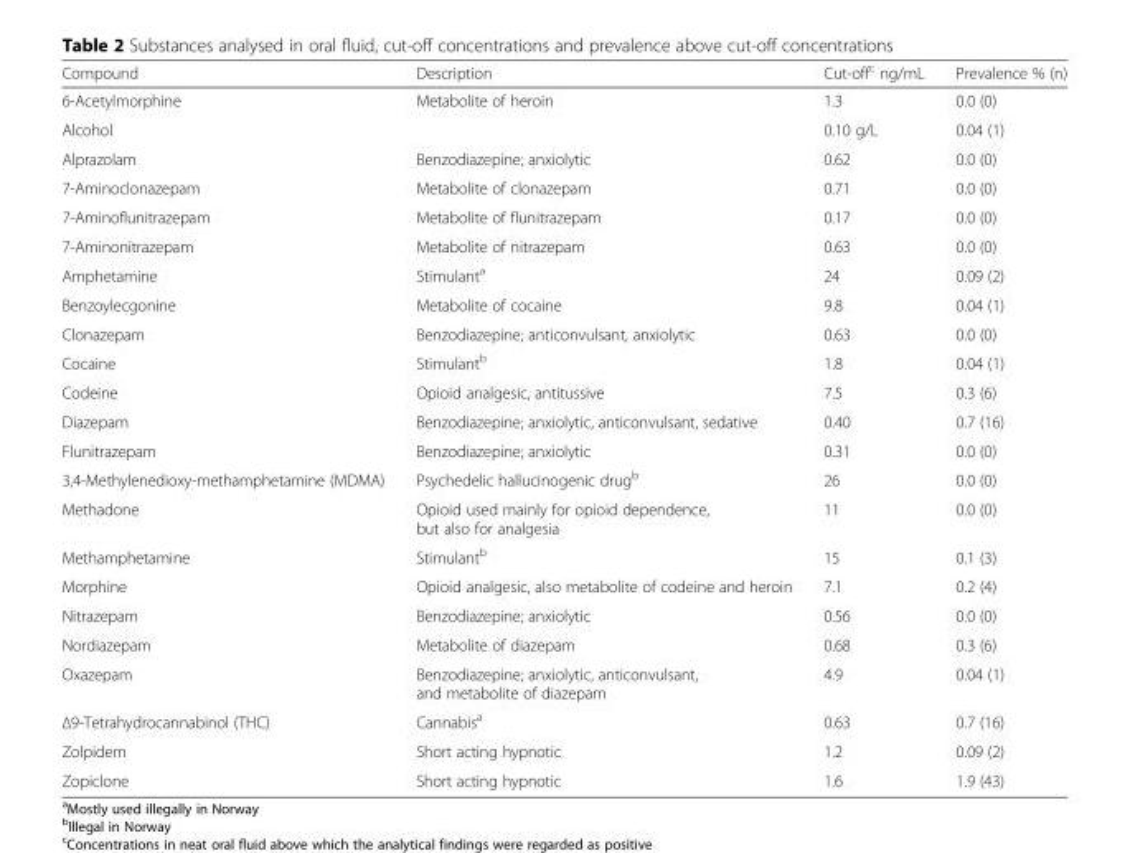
<table><thead><tr><td>Compound</td><td>Description</td><td>Cut-off<sup>c</sup> ng/mL</td><td>Prevalence % (n)</td></tr></thead><tbody><tr><td>6-Acetylmorphine</td><td>Metabolite of heroin</td><td>1.3</td><td>0.0 (0)</td></tr><tr><td>Alcohol</td><td></td><td>0.10 g/L</td><td>0.04 (1)</td></tr><tr><td>Alprazolam</td><td>Benzodiazepine; anxiolytic</td><td>0.62</td><td>0.0 (0)</td></tr><tr><td>7-Aminoclonazepam</td><td>Metabolite of clonazepam</td><td>0.71</td><td>0.0 (0)</td></tr><tr><td>7-Aminoflunitrazepam</td><td>Metabolite of flunitrazepam</td><td>0.17</td><td>0.0 (0)</td></tr><tr><td>7-Aminonitrazepam</td><td>Metabolite of nitrazepam</td><td>0.63</td><td>0.0 (0)</td></tr><tr><td>Amphetamine</td><td>Stimulant<sup>a</sup></td><td>24</td><td>0.09 (2)</td></tr><tr><td>Benzoylecgonine</td><td>Metabolite of cocaine</td><td>9.8</td><td>0.04 (1)</td></tr><tr><td>Clonazepam</td><td>Benzodiazepine; anticonvulsant, anxiolytic</td><td>0.63</td><td>0.0 (0)</td></tr><tr><td>Cocaine</td><td>Stimulant<sup>b</sup></td><td>1.8</td><td>0.04 (1)</td></tr><tr><td>Codeine</td><td>Opioid analgesic, antitussive</td><td>7.5</td><td>0.3 (6)</td></tr><tr><td>Diazepam</td><td>Benzodiazepine; anxiolytic, anticonvulsant, sedative</td><td>0.40</td><td>0.7 (16)</td></tr><tr><td>Flunitrazepam</td><td>Benzodiazepine; anxiolytic</td><td>0.31</td><td>0.0 (0)</td></tr><tr><td>3,4-Methylenedioxy-methamphetamine (MDMA)</td><td>Psychedelic hallucinogenic drug<sup>b</sup></td><td>26</td><td>0.0 (0)</td></tr><tr><td>Methadone</td><td>Opioid used mainly for opioid dependence, but also for analgesia</td><td>11</td><td>0.0 (0)</td></tr><tr><td>Methamphetamine</td><td>Stimulant<sup>b</sup></td><td>15</td><td>0.1 (3)</td></tr><tr><td>Morphine</td><td>Opioid analgesic, also metabolite of codeine and heroin</td><td>7.1</td><td>0.2 (4)</td></tr><tr><td>Nitrazepam</td><td>Benzodiazepine; anxiolytic</td><td>0.56</td><td>0.0 (0)</td></tr><tr><td>Nordiazepam</td><td>Metabolite of diazepam</td><td>0.68</td><td>0.3 (6)</td></tr><tr><td>Oxazepam</td><td>Benzodiazepine; anxiolytic, anticonvulsant, and metabolite of diazepam</td><td>4.9</td><td>0.04 (1)</td></tr><tr><td>Δ9-Tetrahydrocannabinol (THC)</td><td>Cannabis<sup>a</sup></td><td>0.63</td><td>0.7 (16)</td></tr><tr><td>Zolpidem</td><td>Short acting hypnotic</td><td>1.2</td><td>0.09 (2)</td></tr><tr><td>Zopiclone</td><td>Short acting hypnotic</td><td>1.6</td><td>1.9 (43)</td></tr></tbody></table>